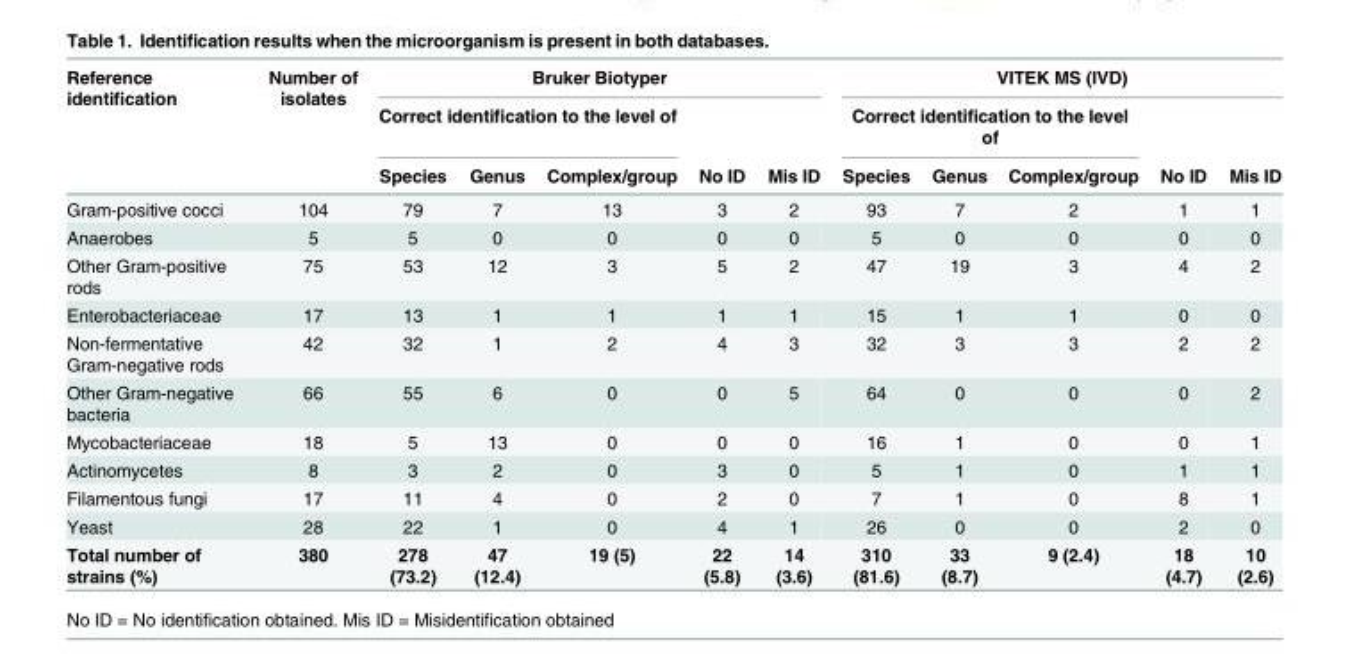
<table><thead><tr><td rowspan="3">Reference identification</td><td rowspan="3">Number of isolates</td><td colspan="5">Bruker Biotyper</td><td colspan="5">VITEK MS (IVD)</td></tr><tr><td colspan="3">Correct identification to the level of</td><td rowspan="2">No ID</td><td rowspan="2">Mis ID</td><td colspan="3">Correct identification to the level of</td><td rowspan="2">No ID</td><td rowspan="2">Mis ID</td></tr><tr><td>Species</td><td>Genus</td><td>Complex/group</td><td>Species</td><td>Genus</td><td>Complex/group</td></tr></thead><tbody><tr><td>Gram-positive cocci</td><td>104</td><td>79</td><td>7</td><td>13</td><td>3</td><td>2</td><td>93</td><td>7</td><td>2</td><td>1</td><td>1</td></tr><tr><td>Anaerobes</td><td>5</td><td>5</td><td>0</td><td>0</td><td>0</td><td>0</td><td>5</td><td>0</td><td>0</td><td>0</td><td>0</td></tr><tr><td>Other Gram-positive rods</td><td>75</td><td>53</td><td>12</td><td>3</td><td>5</td><td>2</td><td>47</td><td>19</td><td>3</td><td>4</td><td>2</td></tr><tr><td>Enterobacteriaceae</td><td>17</td><td>13</td><td>1</td><td>1</td><td>1</td><td>1</td><td>15</td><td>1</td><td>1</td><td>0</td><td>0</td></tr><tr><td>Non-fermentative Gram-negative rods</td><td>42</td><td>32</td><td>1</td><td>2</td><td>4</td><td>3</td><td>32</td><td>3</td><td>3</td><td>2</td><td>2</td></tr><tr><td>Other Gram-negative bacteria</td><td>66</td><td>55</td><td>6</td><td>0</td><td>0</td><td>5</td><td>64</td><td>0</td><td>0</td><td>0</td><td>2</td></tr><tr><td>Mycobacteriaceae</td><td>18</td><td>5</td><td>13</td><td>0</td><td>0</td><td>0</td><td>16</td><td>1</td><td>0</td><td>0</td><td>1</td></tr><tr><td>Actinomycetes</td><td>8</td><td>3</td><td>2</td><td>0</td><td>3</td><td>0</td><td>5</td><td>1</td><td>0</td><td>1</td><td>1</td></tr><tr><td>Filamentous fungi</td><td>17</td><td>11</td><td>4</td><td>0</td><td>2</td><td>0</td><td>7</td><td>1</td><td>0</td><td>8</td><td>1</td></tr><tr><td>Yeast</td><td>28</td><td>22</td><td>1</td><td>0</td><td>4</td><td>1</td><td>26</td><td>0</td><td>0</td><td>2</td><td>0</td></tr><tr><td>Total number of strains (%)</td><td>380</td><td>278 (73.2)</td><td>47 (12.4)</td><td>19 (5)</td><td>22 (5.8)</td><td>14 (3.6)</td><td>310 (81.6)</td><td>33 (8.7)</td><td>9 (2.4)</td><td>18 (4.7)</td><td>10 (2.6)</td></tr></tbody></table>